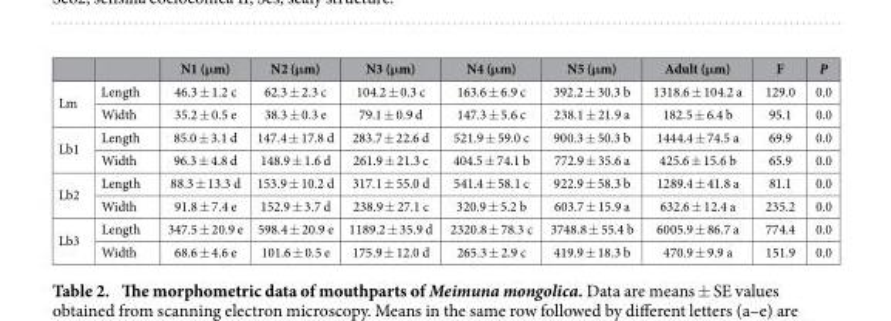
<table><thead><tr><td></td><td></td><td>N1 (μm)</td><td>N2 (μm)</td><td>N3 (μm)</td><td>N4 (μm)</td><td>N5 (μm)</td><td>Adult (μm)</td><td>F</td><td>P</td></tr></thead><tbody><tr><td rowspan="2">Lm</td><td>Length</td><td>46.3 ± 1.2 c</td><td>62.3 ± 2.3 c</td><td>104.2 ± 0.3 c</td><td>163.6 ± 6.9 c</td><td>392.2 ± 30.3 b</td><td>1318.6 ± 104.2 a</td><td>129.0</td><td>0.0</td></tr><tr><td>Width</td><td>35.2 ± 0.5 e</td><td>38.3 ± 0.3 e</td><td>79.1 ± 0.9 d</td><td>147.3 ± 5.6 c</td><td>238.1 ± 21.9 a</td><td>182.5 ± 6.4 b</td><td>95.1</td><td>0.0</td></tr><tr><td rowspan="2">Lb1</td><td>Length</td><td>85.0 ± 3.1 d</td><td>147.4 ± 17.8 d</td><td>283.7 ± 22.6 d</td><td>521.9 ± 59.0 c</td><td>900.3 ± 50.3 b</td><td>1444.4 ± 74.5 a</td><td>69.9</td><td>0.0</td></tr><tr><td>Width</td><td>96.3 ± 4.8 d</td><td>148.9 ± 1.6 d</td><td>261.9 ± 21.3 c</td><td>404.5 ± 74.1 b</td><td>772.9 ± 35.6 a</td><td>425.6 ± 15.6 b</td><td>65.9</td><td>0.0</td></tr><tr><td rowspan="2">Lb2</td><td>Length</td><td>88.3 ± 13.3 d</td><td>153.9 ± 10.2 d</td><td>317.1 ± 55.0 d</td><td>541.4 ± 58.1 c</td><td>922.9 ± 58.3 b</td><td>1289.4 ± 41.8 a</td><td>81.1</td><td>0.0</td></tr><tr><td>Width</td><td>91.8 ± 7.4 e</td><td>152.9 ± 3.7 d</td><td>238.9 ± 27.1 c</td><td>320.9 ± 5.2 b</td><td>603.7 ± 15.9 a</td><td>632.6 ± 12.4 a</td><td>235.2</td><td>0.0</td></tr><tr><td rowspan="2">Lb3</td><td>Length</td><td>347.5 ± 20.9 e</td><td>598.4 ± 20.9 e</td><td>1189.2 ± 35.9 d</td><td>2320.8 ± 78.3 c</td><td>3748.8 ± 55.4 b</td><td>6005.9 ± 86.7 a</td><td>774.4</td><td>0.0</td></tr><tr><td>Width</td><td>68.6 ± 4.6 e</td><td>101.6 ± 0.5 e</td><td>175.9 ± 12.0 d</td><td>265.3 ± 2.9 c</td><td>419.9 ± 18.3 b</td><td>470.9 ± 9.9 a</td><td>151.9</td><td>0.0</td></tr></tbody></table>